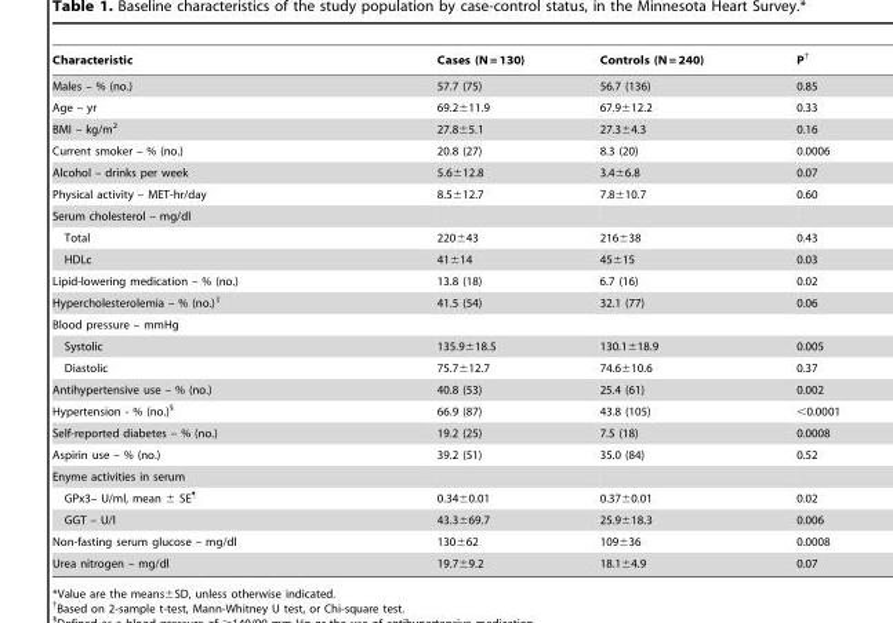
<table><thead><tr><td>Characteristic</td><td>Cases (N = 130)</td><td>Controls (N = 240)</td><td>P†</td></tr></thead><tbody><tr><td>Males – % (no.)</td><td>57.7 (75)</td><td>56.7 (136)</td><td>0.85</td></tr><tr><td>Age – yr</td><td>69.2±11.9</td><td>67.9±12.2</td><td>0.33</td></tr><tr><td>BMI – kg/m<sup>2</sup></td><td>27.8±5.1</td><td>27.3±4.3</td><td>0.16</td></tr><tr><td>Current smoker – % (no.)</td><td>20.8 (27)</td><td>8.3 (20)</td><td>0.0006</td></tr><tr><td>Alcohol – drinks per week</td><td>5.6±12.8</td><td>3.4±6.8</td><td>0.07</td></tr><tr><td>Physical activity – MET-hr/day</td><td>8.5±12.7</td><td>7.8±10.7</td><td>0.60</td></tr><tr><td colspan="4">Serum cholesterol – mg/dl</td></tr><tr><td>Total</td><td>220±43</td><td>216±38</td><td>0.43</td></tr><tr><td>HDLc</td><td>41±14</td><td>45±15</td><td>0.03</td></tr><tr><td>Lipid-lowering medication – % (no.)</td><td>13.8 (18)</td><td>6.7 (16)</td><td>0.02</td></tr><tr><td>Hypercholesterolemia – % (no.)∥</td><td>41.5 (54)</td><td>32.1 (77)</td><td>0.06</td></tr><tr><td colspan="4">Blood pressure – mmHg</td></tr><tr><td>Systolic</td><td>135.9±18.5</td><td>130.1±18.9</td><td>0.005</td></tr><tr><td>Diastolic</td><td>75.7±12.7</td><td>74.6±10.6</td><td>0.37</td></tr><tr><td>Antihypertensive use – % (no.)</td><td>40.8 (53)</td><td>25.4 (61)</td><td>0.002</td></tr><tr><td>Hypertension - % (no.)§</td><td>66.9 (87)</td><td>43.8 (105)</td><td>&lt;0.0001</td></tr><tr><td>Self-reported diabetes – % (no.)</td><td>19.2 (25)</td><td>7.5 (18)</td><td>0.0008</td></tr><tr><td>Aspirin use – % (no.)</td><td>39.2 (51)</td><td>35.0 (84)</td><td>0.52</td></tr><tr><td colspan="4">Enyme activities in serum</td></tr><tr><td>GPx3– U/ml, mean ± SE¶</td><td>0.34±0.01</td><td>0.37±0.01</td><td>0.02</td></tr><tr><td>GGT – U/l</td><td>43.3±69.7</td><td>25.9±18.3</td><td>0.006</td></tr><tr><td>Non-fasting serum glucose – mg/dl</td><td>130±62</td><td>109±36</td><td>0.0008</td></tr><tr><td>Urea nitrogen – mg/dl</td><td>19.7±9.2</td><td>18.1±4.9</td><td>0.07</td></tr></tbody></table>